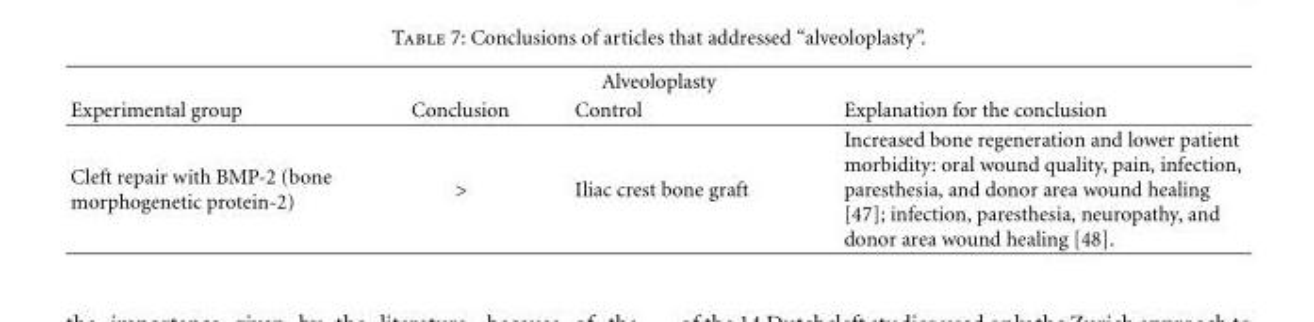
<table><thead><tr><td colspan="4">Alveoloplasty</td></tr><tr><td>Experimental group</td><td>Conclusion</td><td>Control</td><td>Explanation for the conclusion</td></tr></thead><tbody><tr><td>Cleft repair with BMP-2 (bone morphogenetic protein-2)</td><td>&gt;</td><td>Iliac crest bone graft</td><td>Increased bone regeneration and lower patient morbidity: oral wound quality, pain, infection, paresthesia, and donor area wound healing [47]; infection, paresthesia, neuropathy, and donor area wound healing [48].</td></tr></tbody></table>